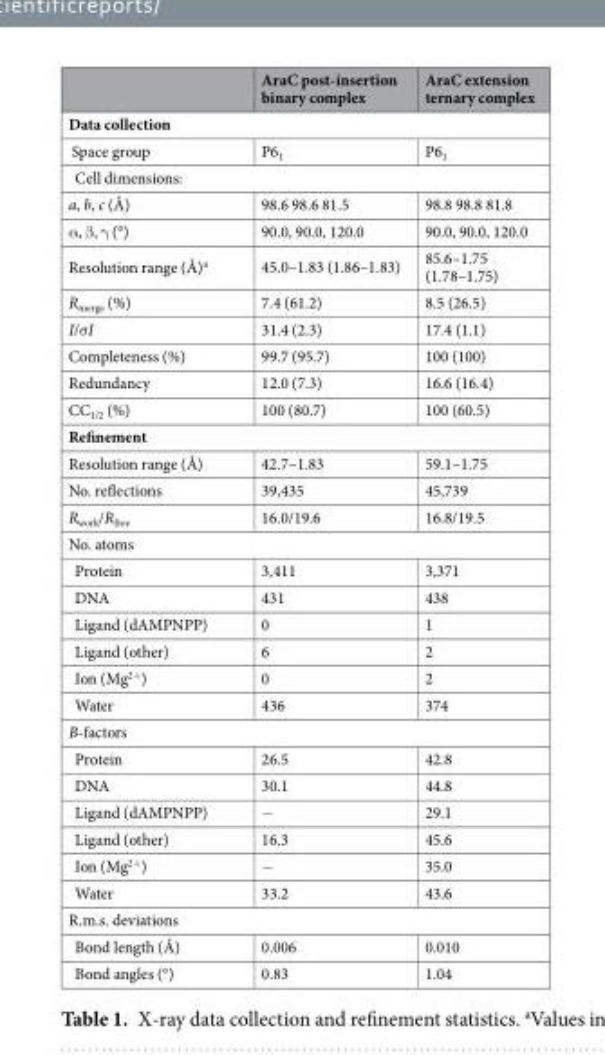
<table><thead><tr><td></td><td>AraC post-insertion binary complex</td><td>AraC extension ternary complex</td></tr></thead><tbody><tr><td colspan="3">Data collection</td></tr><tr><td>Space group</td><td>P6<sub>1</sub></td><td>P6<sub>1</sub></td></tr><tr><td colspan="3">Cell dimensions:</td></tr><tr><td>a, b, c (Å)</td><td>98.6 98.6 81.5</td><td>98.8 98.8 81.8</td></tr><tr><td>α, β, γ (°)</td><td>90.0, 90.0, 120.0</td><td>90.0, 90.0, 120.0</td></tr><tr><td>Resolution range (Å)<sup>a</sup></td><td>45.0–1.83 (1.86–1.83)</td><td>85.6–1.75 (1.78–1.75)</td></tr><tr><td>R<sub>merge</sub> (%)</td><td>7.4 (61.2)</td><td>8.5 (26.5)</td></tr><tr><td>I/σI</td><td>31.4 (2.3)</td><td>17.4 (1.1)</td></tr><tr><td>Completeness (%)</td><td>99.7 (95.7)</td><td>100 (100)</td></tr><tr><td>Redundancy</td><td>12.0 (7.3)</td><td>16.6 (16.4)</td></tr><tr><td>CC<sub>1/2</sub> (%)</td><td>100 (80.7)</td><td>100 (60.5)</td></tr><tr><td colspan="3">Refinement</td></tr><tr><td>Resolution range (Å)</td><td>42.7–1.83</td><td>59.1–1.75</td></tr><tr><td>No. reflections</td><td>39,435</td><td>45,739</td></tr><tr><td>R<sub>work</sub>/R<sub>free</sub></td><td>16.0/19.6</td><td>16.8/19.5</td></tr><tr><td colspan="3">No. atoms</td></tr><tr><td>Protein</td><td>3,411</td><td>3,371</td></tr><tr><td>DNA</td><td>431</td><td>438</td></tr><tr><td>Ligand (dAMPNPP)</td><td>0</td><td>1</td></tr><tr><td>Ligand (other)</td><td>6</td><td>2</td></tr><tr><td>Ion (Mg<sup>2+</sup>)</td><td>0</td><td>2</td></tr><tr><td>Water</td><td>436</td><td>374</td></tr><tr><td colspan="3">B-factors</td></tr><tr><td>Protein</td><td>26.5</td><td>42.8</td></tr><tr><td>DNA</td><td>30.1</td><td>44.8</td></tr><tr><td>Ligand (dAMPNPP)</td><td>−</td><td>29.1</td></tr><tr><td>Ligand (other)</td><td>16.3</td><td>45.6</td></tr><tr><td>Ion (Mg<sup>2+</sup>)</td><td>−</td><td>35.0</td></tr><tr><td>Water</td><td>33.2</td><td>43.6</td></tr><tr><td colspan="3">R.m.s. deviations</td></tr><tr><td>Bond length (Å)</td><td>0.006</td><td>0.010</td></tr><tr><td>Bond angles (°)</td><td>0.83</td><td>1.04</td></tr></tbody></table>